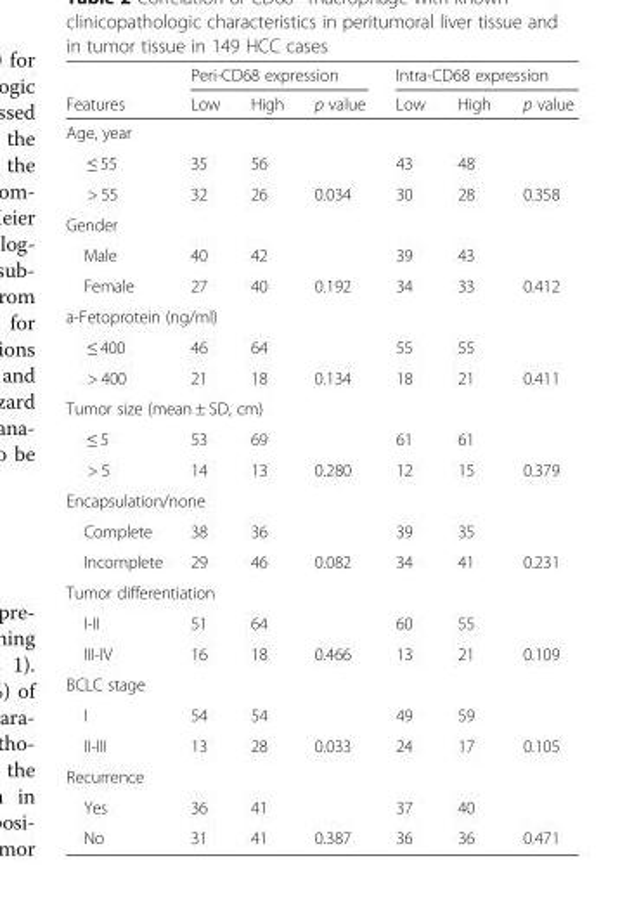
<table><thead><tr><td rowspan="2">Features</td><td colspan="3">Peri-CD68 expression</td><td colspan="3">Intra-CD68 expression</td></tr><tr><td>Low</td><td>High</td><td>p value</td><td>Low</td><td>High</td><td>p value</td></tr></thead><tbody><tr><td colspan="7">Age, year</td></tr><tr><td>≤ 55</td><td>35</td><td>56</td><td></td><td>43</td><td>48</td><td></td></tr><tr><td>&gt; 55</td><td>32</td><td>26</td><td>0.034</td><td>30</td><td>28</td><td>0.358</td></tr><tr><td colspan="7">Gender</td></tr><tr><td>Male</td><td>40</td><td>42</td><td></td><td>39</td><td>43</td><td></td></tr><tr><td>Female</td><td>27</td><td>40</td><td>0.192</td><td>34</td><td>33</td><td>0.412</td></tr><tr><td colspan="7">a-Fetoprotein (ng/ml)</td></tr><tr><td>≤ 400</td><td>46</td><td>64</td><td></td><td>55</td><td>55</td><td></td></tr><tr><td>&gt; 400</td><td>21</td><td>18</td><td>0.134</td><td>18</td><td>21</td><td>0.411</td></tr><tr><td colspan="7">Tumor size (mean ± SD, cm)</td></tr><tr><td>≤ 5</td><td>53</td><td>69</td><td></td><td>61</td><td>61</td><td></td></tr><tr><td>&gt; 5</td><td>14</td><td>13</td><td>0.280</td><td>12</td><td>15</td><td>0.379</td></tr><tr><td colspan="7">Encapsulation/none</td></tr><tr><td>Complete</td><td>38</td><td>36</td><td></td><td>39</td><td>35</td><td></td></tr><tr><td>Incomplete</td><td>29</td><td>46</td><td>0.082</td><td>34</td><td>41</td><td>0.231</td></tr><tr><td colspan="7">Tumor differentiation</td></tr><tr><td>I-II</td><td>51</td><td>64</td><td></td><td>60</td><td>55</td><td></td></tr><tr><td>III-IV</td><td>16</td><td>18</td><td>0.466</td><td>13</td><td>21</td><td>0.109</td></tr><tr><td colspan="7">BCLC stage</td></tr><tr><td>I</td><td>54</td><td>54</td><td></td><td>49</td><td>59</td><td></td></tr><tr><td>II-III</td><td>13</td><td>28</td><td>0.033</td><td>24</td><td>17</td><td>0.105</td></tr><tr><td colspan="7">Recurrence</td></tr><tr><td>Yes</td><td>36</td><td>41</td><td></td><td>37</td><td>40</td><td></td></tr><tr><td>No</td><td>31</td><td>41</td><td>0.387</td><td>36</td><td>36</td><td>0.471</td></tr></tbody></table>